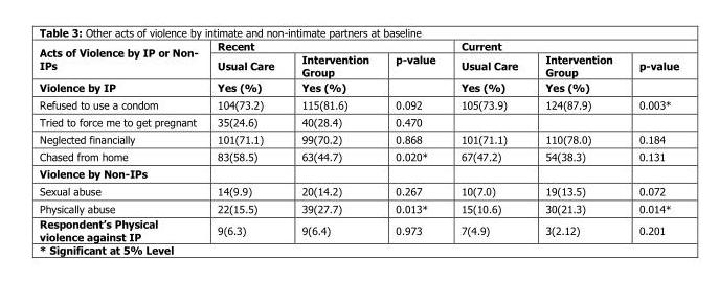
<table><thead><tr><td rowspan="2">Acts of Violence by IP or Non- IPs</td><td colspan="3">Recent</td><td colspan="3">Current</td></tr><tr><td>Usual Care</td><td>Intervention Group</td><td>p-value</td><td>Usual Care</td><td>Intervention Group</td><td>p-value</td></tr></thead><tbody><tr><td>Violence by IP</td><td>Yes (%)</td><td>Yes (%)</td><td></td><td>Yes (%)</td><td>Yes (%)</td><td></td></tr><tr><td>Refused to use a condom</td><td>104(73.2)</td><td>115(81.6)</td><td>0.092</td><td>105(73.9)</td><td>124(87.9)</td><td>0.003*</td></tr><tr><td>Tried to force me to get pregnant</td><td>35(24.6)</td><td>40(28.4)</td><td>0.470</td><td></td><td></td><td></td></tr><tr><td>Neglected financially</td><td>101(71.1)</td><td>99(70.2)</td><td>0.868</td><td>101(71.1)</td><td>110(78.0)</td><td>0.184</td></tr><tr><td>Chased from home</td><td>83(58.5)</td><td>63(44.7)</td><td>0.020*</td><td>67(47.2)</td><td>54(38.3)</td><td>0.131</td></tr><tr><td colspan="7">Violence by Non-IPs</td></tr><tr><td>Sexual abuse</td><td>14(9.9)</td><td>20(14.2)</td><td>0.267</td><td>10(7.0)</td><td>19(13.5)</td><td>0.072</td></tr><tr><td>Physically abuse</td><td>22(15.5)</td><td>39(27.7)</td><td>0.013*</td><td>15(10.6)</td><td>30(21.3)</td><td>0.014*</td></tr><tr><td>Respondent’s Physical violence against IP</td><td>9(6.3)</td><td>9(6.4)</td><td>0.973</td><td>7(4.9)</td><td>3(2.12)</td><td>0.201</td></tr></tbody></table>